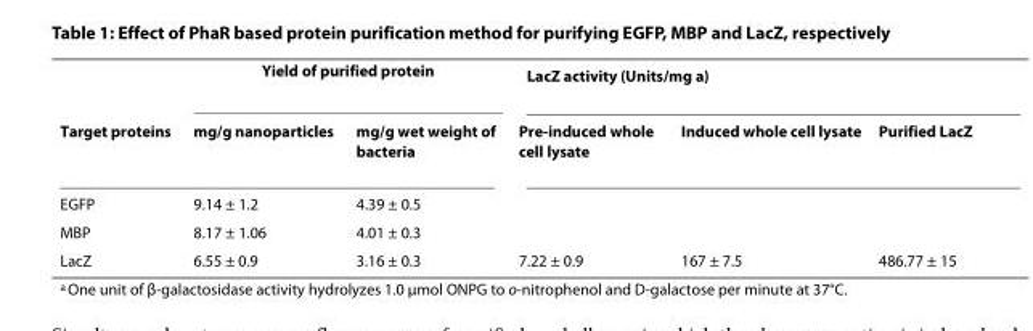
<table><thead><tr><td rowspan="2">Target proteins</td><td colspan="2">Yield of purified protein</td><td colspan="3">LacZ activity (Units/mg <sup>a</sup>)</td></tr><tr><td>mg/g nanoparticles</td><td>mg/g wet weight of bacteria</td><td>Pre-induced whole cell lysate</td><td>Induced whole cell lysate</td><td>Purified LacZ</td></tr></thead><tbody><tr><td>EGFP</td><td>9.14 ± 1.2</td><td>4.39 ± 0.5</td><td></td><td></td><td></td></tr><tr><td>MBP</td><td>8.17 ± 1.06</td><td>4.01 ± 0.3</td><td></td><td></td><td></td></tr><tr><td>LacZ</td><td>6.55 ± 0.9</td><td>3.16 ± 0.3</td><td>7.22 ± 0.9</td><td>167 ± 7.5</td><td>486.77 ± 15</td></tr></tbody></table>